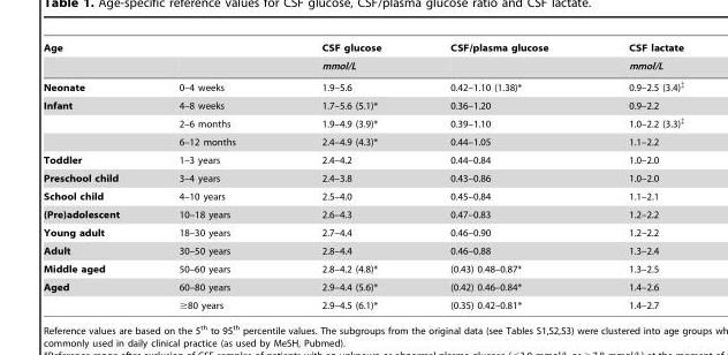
<table><thead><tr><td rowspan="2">Age</td><td rowspan="2"></td><td rowspan="2">CSF glucose mmol/L</td><td rowspan="2">CSF/plasma glucose</td><td rowspan="2">CSF lactate mmol/L</td></tr><tr></tr></thead><tbody><tr><td>Neonate</td><td>0–4 weeks</td><td>1.9–5.6</td><td>0.42–1.10 (1.38)*</td><td>0.9–2.5 (3.4)<sup>‡</sup></td></tr><tr><td rowspan="3">Infant</td><td>4–8 weeks</td><td>1.7–5.6 (5.1)*</td><td>0.36–1.20</td><td>0.9–2.2</td></tr><tr><td>2–6 months</td><td>1.9–4.9 (3.9)*</td><td>0.39–1.10</td><td>1.0–2.2 (3.3)<sup>‡</sup></td></tr><tr><td>6–12 months</td><td>2.4–4.9 (4.3)*</td><td>0.44–1.05</td><td>1.1–2.2</td></tr><tr><td>Toddler</td><td>1–3 years</td><td>2.4–4.2</td><td>0.44–0.84</td><td>1.0–2.0</td></tr><tr><td>Preschool child</td><td>3–4 years</td><td>2.4–3.8</td><td>0.43–0.86</td><td>1.0–2.0</td></tr><tr><td>School child</td><td>4–10 years</td><td>2.5–4.0</td><td>0.45–0.84</td><td>1.1–2.1</td></tr><tr><td>(Pre)adolescent</td><td>10–18 years</td><td>2.6–4.3</td><td>0.47–0.83</td><td>1.2–2.2</td></tr><tr><td>Young adult</td><td>18–30 years</td><td>2.7–4.4</td><td>0.46–0.90</td><td>1.2–2.2</td></tr><tr><td>Adult</td><td>30–50 years</td><td>2.8–4.4</td><td>0.46–0.88</td><td>1.3–2.4</td></tr><tr><td>Middle aged</td><td>50–60 years</td><td>2.8–4.2 (4.8)*</td><td>(0.43) 0.48–0.87*</td><td>1.3–2.5</td></tr><tr><td rowspan="2">Aged</td><td>60–80 years</td><td>2.9–4.4 (5.6)*</td><td>(0.42) 0.46–0.84*</td><td>1.4–2.6</td></tr><tr><td>≥80 years</td><td>2.9–4.5 (6.1)*</td><td>(0.35) 0.42–0.81*</td><td>1.4–2.7</td></tr></tbody></table>